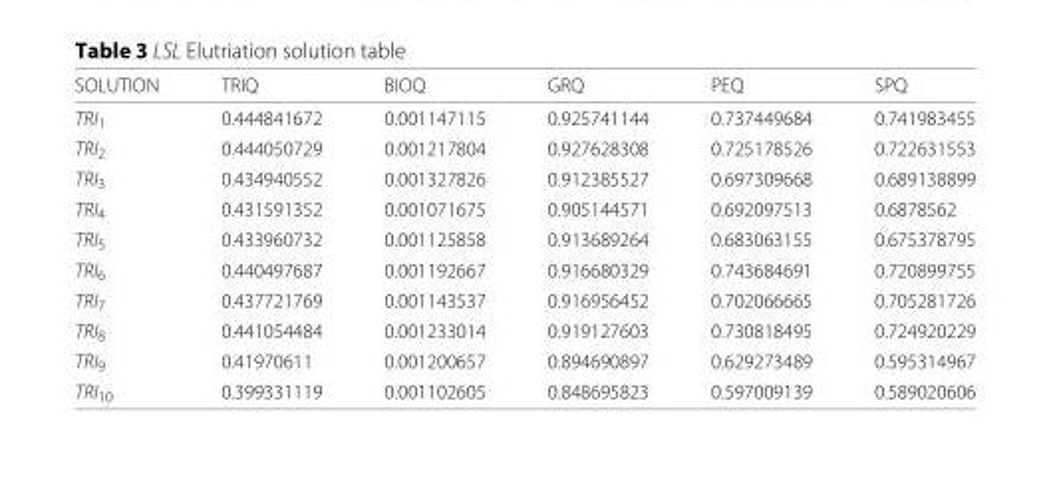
<table><thead><tr><td>SOLUTION</td><td>TRIQ</td><td>BIOQ</td><td>GRQ</td><td>PEQ</td><td>SPQ</td></tr></thead><tbody><tr><td>TRI<sub>1</sub></td><td>0.444841672</td><td>0.001147115</td><td>0.925741144</td><td>0.737449684</td><td>0.741983455</td></tr><tr><td>TRI<sub>2</sub></td><td>0.444050729</td><td>0.001217804</td><td>0.927628308</td><td>0.725178526</td><td>0.722631553</td></tr><tr><td>TRI<sub>3</sub></td><td>0.434940552</td><td>0.001327826</td><td>0.912385527</td><td>0.697309668</td><td>0.689138899</td></tr><tr><td>TRI<sub>4</sub></td><td>0.431591352</td><td>0.001071675</td><td>0.905144571</td><td>0.692097513</td><td>0.6878562</td></tr><tr><td>TRI<sub>5</sub></td><td>0.433960732</td><td>0.001125858</td><td>0.913689264</td><td>0.683063155</td><td>0.675378795</td></tr><tr><td>TRI<sub>6</sub></td><td>0.440497687</td><td>0.001192667</td><td>0.916680329</td><td>0.743684691</td><td>0.720899755</td></tr><tr><td>TRI<sub>7</sub></td><td>0.437721769</td><td>0.001143537</td><td>0.916956452</td><td>0.702066665</td><td>0.705281726</td></tr><tr><td>TRI<sub>8</sub></td><td>0.441054484</td><td>0.001233014</td><td>0.919127603</td><td>0.730818495</td><td>0.724920229</td></tr><tr><td>TRI<sub>9</sub></td><td>0.41970611</td><td>0.001200657</td><td>0.894690897</td><td>0.629273489</td><td>0.595314967</td></tr><tr><td>TRI<sub>10</sub></td><td>0.399331119</td><td>0.001102605</td><td>0.848695823</td><td>0.597009139</td><td>0.589020606</td></tr></tbody></table>